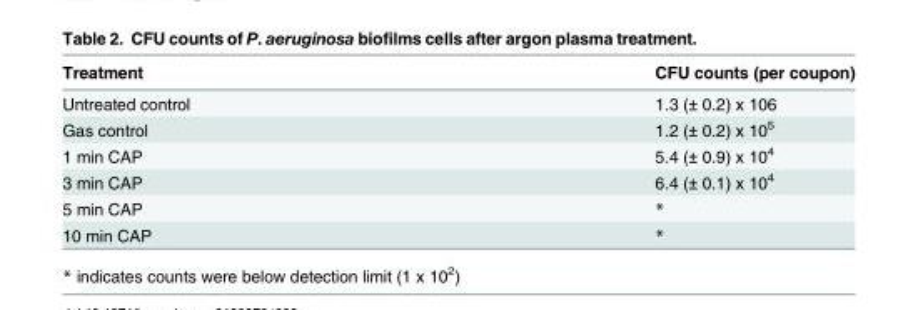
<table><thead><tr><td>Treatment</td><td>CFU counts (per coupon)</td></tr></thead><tbody><tr><td>Untreated control</td><td>1.3 (± 0.2) x 106</td></tr><tr><td>Gas control</td><td>1.2 (± 0.2) x 10<sup>5</sup></td></tr><tr><td>1 min CAP</td><td>5.4 (± 0.9) x 10<sup>4</sup></td></tr><tr><td>3 min CAP</td><td>6.4 (± 0.1) x 10<sup>4</sup></td></tr><tr><td>5 min CAP</td><td>*</td></tr><tr><td>10 min CAP</td><td>*</td></tr></tbody></table>